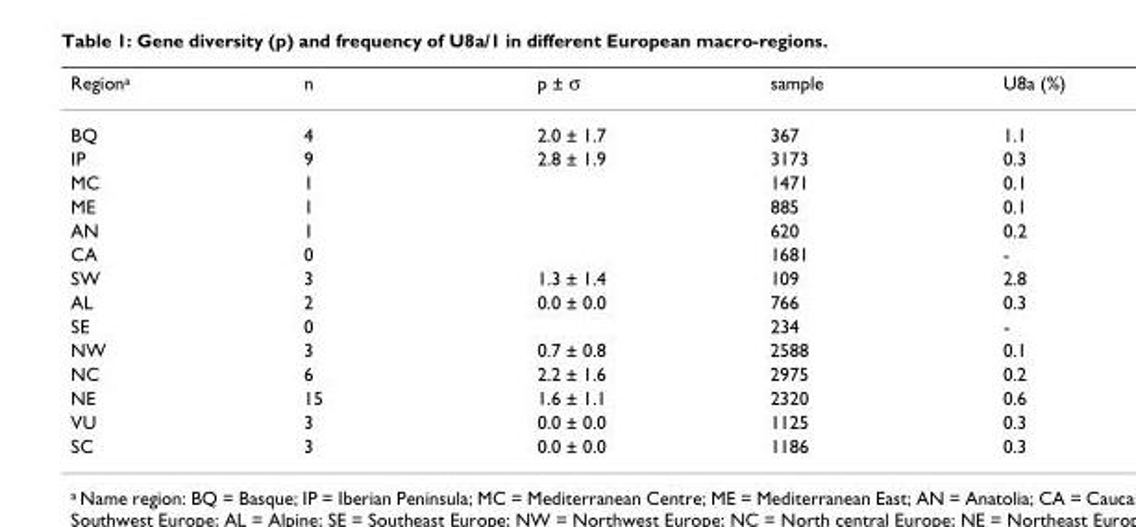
<table><thead><tr><td>Region<sup>a</sup></td><td>n</td><td>p ± σ</td><td>sample</td><td>U8a (%)</td></tr></thead><tbody><tr><td>BQ</td><td>4</td><td>2.0 ± 1.7</td><td>367</td><td>1.1</td></tr><tr><td>IP</td><td>9</td><td>2.8 ± 1.9</td><td>3173</td><td>0.3</td></tr><tr><td>MC</td><td>1</td><td></td><td>1471</td><td>0.1</td></tr><tr><td>ME</td><td>1</td><td></td><td>885</td><td>0.1</td></tr><tr><td>AN</td><td>1</td><td></td><td>620</td><td>0.2</td></tr><tr><td>CA</td><td>0</td><td></td><td>1681</td><td>-</td></tr><tr><td>SW</td><td>3</td><td>1.3 ± 1.4</td><td>109</td><td>2.8</td></tr><tr><td>AL</td><td>2</td><td>0.0 ± 0.0</td><td>766</td><td>0.3</td></tr><tr><td>SE</td><td>0</td><td></td><td>234</td><td>-</td></tr><tr><td>NW</td><td>3</td><td>0.7 ± 0.8</td><td>2588</td><td>0.1</td></tr><tr><td>NC</td><td>6</td><td>2.2 ± 1.6</td><td>2975</td><td>0.2</td></tr><tr><td>NE</td><td>15</td><td>1.6 ± 1.1</td><td>2320</td><td>0.6</td></tr><tr><td>VU</td><td>3</td><td>0.0 ± 0.0</td><td>1125</td><td>0.3</td></tr><tr><td>SC</td><td>3</td><td>0.0 ± 0.0</td><td>1186</td><td>0.3</td></tr></tbody></table>